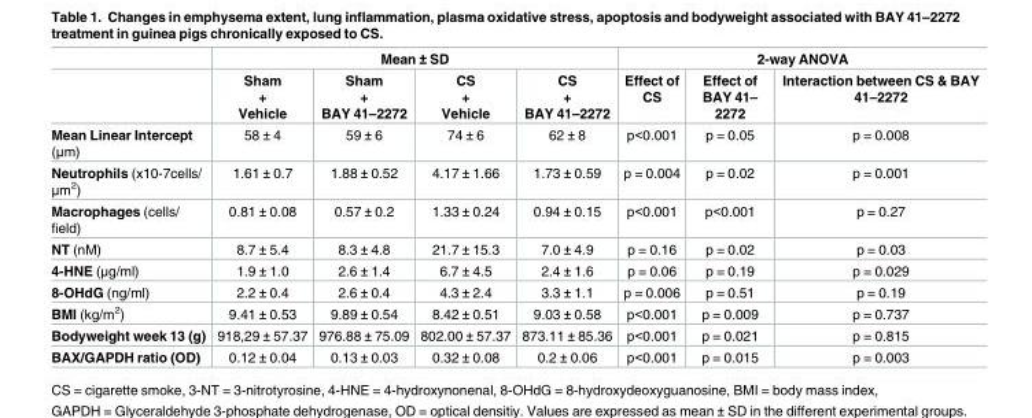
<table><thead><tr><td rowspan="2"></td><td colspan="4">Mean ± SD</td><td colspan="3">2-way ANOVA</td></tr><tr><td>Sham + Vehicle</td><td>Sham + BAY 41–2272</td><td>CS + Vehicle</td><td>CS + BAY 41–2272</td><td>Effect of CS</td><td>Effect of BAY 41– 2272</td><td>Interaction between CS &amp; BAY 41–2272</td></tr></thead><tbody><tr><td>Mean Linear Intercept (μm)</td><td>58 ± 4</td><td>59 ± 6</td><td>74 ± 6</td><td>62 ± 8</td><td>p&lt;0.001</td><td>p = 0.05</td><td>p = 0.008</td></tr><tr><td>Neutrophils (x10-7cells/ μm<sup>2</sup>)</td><td>1.61 ± 0.7</td><td>1.88 ± 0.52</td><td>4.17 ± 1.66</td><td>1.73 ± 0.59</td><td>p = 0.004</td><td>p = 0.02</td><td>p = 0.001</td></tr><tr><td>Macrophages (cells/ field)</td><td>0.81 ± 0.08</td><td>0.57 ± 0.2</td><td>1.33 ± 0.24</td><td>0.94 ± 0.15</td><td>p&lt;0.001</td><td>p&lt;0.001</td><td>p = 0.27</td></tr><tr><td>NT (nM)</td><td>8.7 ± 5.4</td><td>8.3 ± 4.8</td><td>21.7 ± 15.3</td><td>7.0 ± 4.9</td><td>p = 0.16</td><td>p = 0.02</td><td>p = 0.03</td></tr><tr><td>4-HNE (μg/ml)</td><td>1.9 ± 1.0</td><td>2.6 ± 1.4</td><td>6.7 ± 4.5</td><td>2.4 ± 1.6</td><td>p = 0.06</td><td>p = 0.19</td><td>p = 0.029</td></tr><tr><td>8-OHdG (ng/ml)</td><td>2.2 ± 0.4</td><td>2.6 ± 0.4</td><td>4.3 ± 2.4</td><td>3.3 ± 1.1</td><td>p = 0.006</td><td>p = 0.51</td><td>p = 0.19</td></tr><tr><td>BMI (kg/m<sup>2</sup>)</td><td>9.41 ± 0.53</td><td>9.89 ± 0.54</td><td>8.42 ± 0.51</td><td>9.03 ± 0.58</td><td>p&lt;0.001</td><td>p = 0.009</td><td>p = 0.737</td></tr><tr><td>Bodyweight week 13 (g)</td><td>918,29 ± 57.37</td><td>976.88 ± 75.09</td><td>802.00 ± 57.37</td><td>873.11 ± 85.36</td><td>p&lt;0.001</td><td>p = 0.021</td><td>p = 0.815</td></tr><tr><td>BAX/GAPDH ratio (OD)</td><td>0.12 ± 0.04</td><td>0.13 ± 0.03</td><td>0.32 ± 0.08</td><td>0.2 ± 0.06</td><td>p&lt;0.001</td><td>p = 0.015</td><td>p = 0.003</td></tr></tbody></table>